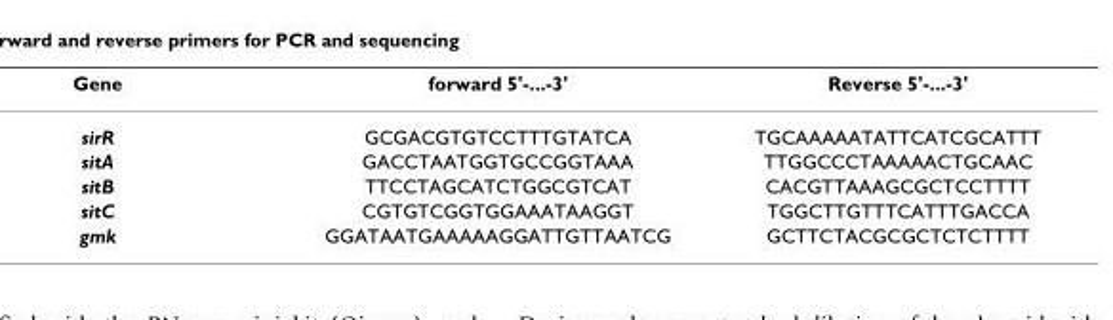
<table><thead><tr><td>Gene</td><td>forward 5&#x27;-...-3&#x27;</td><td>Reverse 5&#x27;-...-3&#x27;</td></tr></thead><tbody><tr><td>sirR</td><td>GCGACGTGTCCTTTGTATCA</td><td>TGCAAAAATATTCATCGCATTT</td></tr><tr><td>sitA</td><td>GACCTAATGGTGCCGGTAAA</td><td>TTGGCCCTAAAAACTGCAAC</td></tr><tr><td>sitB</td><td>TTCCTAGCATCTGGCGTCAT</td><td>CACGTTAAAGCGCTCCTTTT</td></tr><tr><td>sitC</td><td>CGTGTCGGTGGAAATAAGGT</td><td>TGGCTTGTTTCATTTGACCA</td></tr><tr><td>gmk</td><td>GGATAATGAAAAAGGATTGTTAATCG</td><td>GCTTCTACGCGCTCTCTTTT</td></tr></tbody></table>